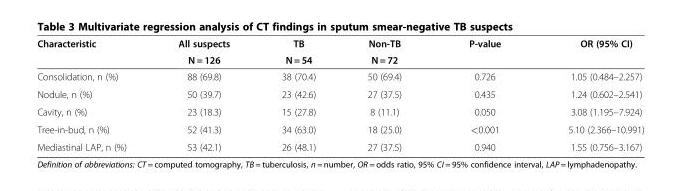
<table><thead><tr><td rowspan="2">Characteristic</td><td rowspan="2">All suspects N = 126</td><td rowspan="2">TB N = 54</td><td rowspan="2">Non-TB N = 72</td><td rowspan="2">P-value</td><td rowspan="2">OR (95% CI)</td></tr><tr></tr></thead><tbody><tr><td>Consolidation, n (%)</td><td>88 (69.8)</td><td>38 (70.4)</td><td>50 (69.4)</td><td>0.726</td><td>1.05 (0.484–2.257)</td></tr><tr><td>Nodule, n (%)</td><td>50 (39.7)</td><td>23 (42.6)</td><td>27 (37.5)</td><td>0.435</td><td>1.24 (0.602–2.541)</td></tr><tr><td>Cavity, n (%)</td><td>23 (18.3)</td><td>15 (27.8)</td><td>8 (11.1)</td><td>0.050</td><td>3.08 (1.195–7.924)</td></tr><tr><td>Tree-in-bud, n (%)</td><td>52 (41.3)</td><td>34 (63.0)</td><td>18 (25.0)</td><td>&lt;0.001</td><td>5.10 (2.366–10.991)</td></tr><tr><td>Mediastinal LAP, n (%)</td><td>53 (42.1)</td><td>26 (48.1)</td><td>27 (37.5)</td><td>0.940</td><td>1.55 (0.756–3.167)</td></tr></tbody></table>